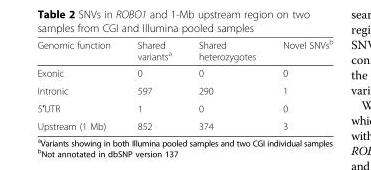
<table><thead><tr><td>Genomic function</td><td>Shared variants<sup>a</sup></td><td>Shared heterozygotes</td><td>Novel SNVs<sup>b</sup></td></tr></thead><tbody><tr><td>Exonic</td><td>0</td><td>0</td><td>0</td></tr><tr><td>Intronic</td><td>597</td><td>290</td><td>1</td></tr><tr><td>5′UTR</td><td>1</td><td>0</td><td>0</td></tr><tr><td>Upstream (1 Mb)</td><td>852</td><td>374</td><td>3</td></tr></tbody></table>